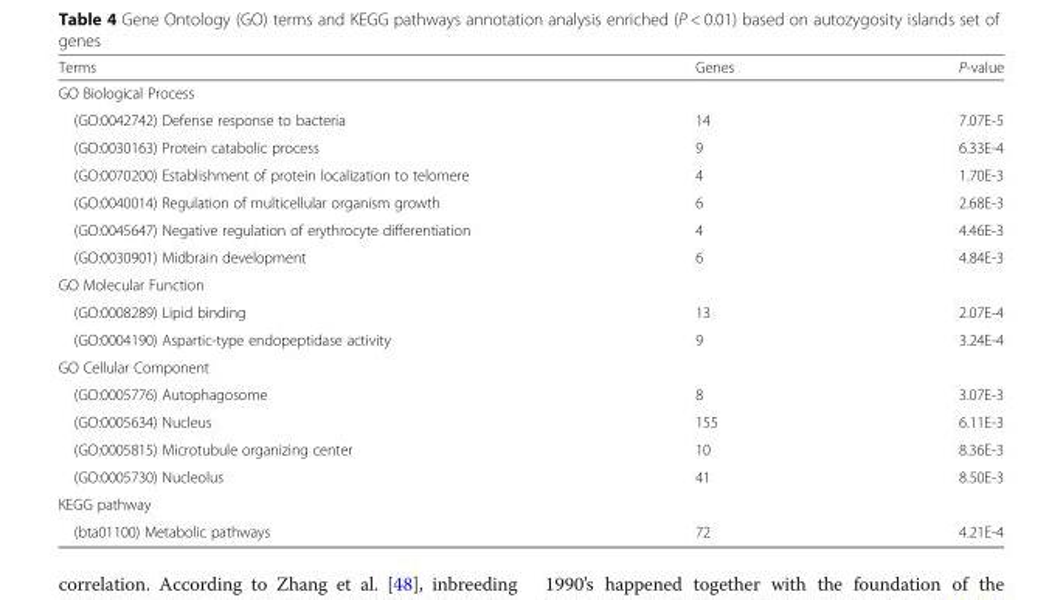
<table><thead><tr><td>Terms</td><td>Genes</td><td>P-value</td></tr></thead><tbody><tr><td colspan="3">GO Biological Process</td></tr><tr><td>(GO:0042742) Defense response to bacteria</td><td>14</td><td>7.07E-5</td></tr><tr><td>(GO:0030163) Protein catabolic process</td><td>9</td><td>6.33E-4</td></tr><tr><td>(GO:0070200) Establishment of protein localization to telomere</td><td>4</td><td>1.70E-3</td></tr><tr><td>(GO:0040014) Regulation of multicellular organism growth</td><td>6</td><td>2.68E-3</td></tr><tr><td>(GO:0045647) Negative regulation of erythrocyte differentiation</td><td>4</td><td>4.46E-3</td></tr><tr><td>(GO:0030901) Midbrain development</td><td>6</td><td>4.84E-3</td></tr><tr><td colspan="3">GO Molecular Function</td></tr><tr><td>(GO:0008289) Lipid binding</td><td>13</td><td>2.07E-4</td></tr><tr><td>(GO:0004190) Aspartic-type endopeptidase activity</td><td>9</td><td>3.24E-4</td></tr><tr><td colspan="3">GO Cellular Component</td></tr><tr><td>(GO:0005776) Autophagosome</td><td>8</td><td>3.07E-3</td></tr><tr><td>(GO:0005634) Nucleus</td><td>155</td><td>6.11E-3</td></tr><tr><td>(GO:0005815) Microtubule organizing center</td><td>10</td><td>8.36E-3</td></tr><tr><td>(GO:0005730) Nucleolus</td><td>41</td><td>8.50E-3</td></tr><tr><td colspan="3">KEGG pathway</td></tr><tr><td>(bta01100) Metabolic pathways</td><td>72</td><td>4.21E-4</td></tr></tbody></table>